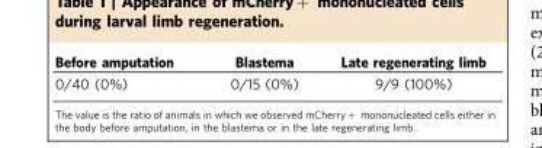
<table><thead><tr><td>Before amputation</td><td>Blastema</td><td>Late regenerating limb</td></tr></thead><tbody><tr><td>0/40 (0%)</td><td>0/15 (0%)</td><td>9/9 (100%)</td></tr></tbody></table>